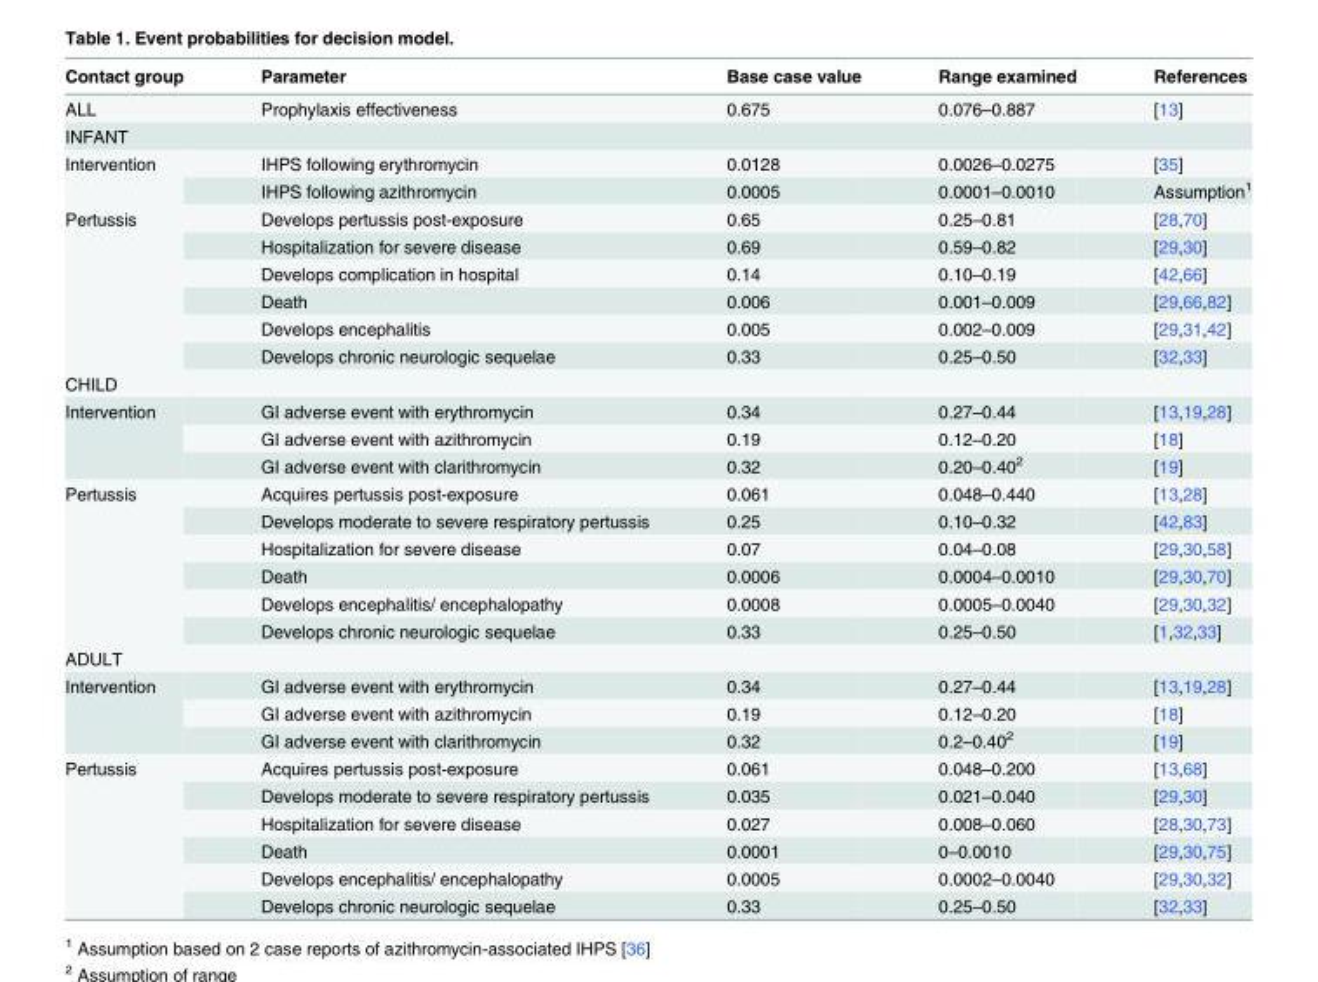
<table><thead><tr><td>Contact group</td><td>Parameter</td><td>Base case value</td><td>Range examined</td><td>References</td></tr></thead><tbody><tr><td>ALL</td><td>Prophylaxis effectiveness</td><td>0.675</td><td>0.076–0.887</td><td>[13]</td></tr><tr><td colspan="5">INFANT</td></tr><tr><td rowspan="2">Intervention</td><td>IHPS following erythromycin</td><td>0.0128</td><td>0.0026–0.0275</td><td>[35]</td></tr><tr><td>IHPS following azithromycin</td><td>0.0005</td><td>0.0001–0.0010</td><td>Assumption<sup>1</sup></td></tr><tr><td rowspan="6">Pertussis</td><td>Develops pertussis post-exposure</td><td>0.65</td><td>0.25–0.81</td><td>[28,70]</td></tr><tr><td>Hospitalization for severe disease</td><td>0.69</td><td>0.59–0.82</td><td>[29,30]</td></tr><tr><td>Develops complication in hospital</td><td>0.14</td><td>0.10–0.19</td><td>[42,66]</td></tr><tr><td>Death</td><td>0.006</td><td>0.001–0.009</td><td>[29,66,82]</td></tr><tr><td>Develops encephalitis</td><td>0.005</td><td>0.002–0.009</td><td>[29,31,42]</td></tr><tr><td>Develops chronic neurologic sequelae</td><td>0.33</td><td>0.25–0.50</td><td>[32,33]</td></tr><tr><td colspan="5">CHILD</td></tr><tr><td rowspan="3">Intervention</td><td>GI adverse event with erythromycin</td><td>0.34</td><td>0.27–0.44</td><td>[13,19,28]</td></tr><tr><td>GI adverse event with azithromycin</td><td>0.19</td><td>0.12–0.20</td><td>[18]</td></tr><tr><td>GI adverse event with clarithromycin</td><td>0.32</td><td>0.20–0.40<sup>2</sup></td><td>[19]</td></tr><tr><td rowspan="6">Pertussis</td><td>Acquires pertussis post-exposure</td><td>0.061</td><td>0.048–0.440</td><td>[13,28]</td></tr><tr><td>Develops moderate to severe respiratory pertussis</td><td>0.25</td><td>0.10–0.32</td><td>[42,83]</td></tr><tr><td>Hospitalization for severe disease</td><td>0.07</td><td>0.04–0.08</td><td>[29,30,58]</td></tr><tr><td>Death</td><td>0.0006</td><td>0.0004–0.0010</td><td>[29,30,70]</td></tr><tr><td>Develops encephalitis/ encephalopathy</td><td>0.0008</td><td>0.0005–0.0040</td><td>[29,30,32]</td></tr><tr><td>Develops chronic neurologic sequelae</td><td>0.33</td><td>0.25–0.50</td><td>[1,32,33]</td></tr><tr><td colspan="5">ADULT</td></tr><tr><td rowspan="3">Intervention</td><td>GI adverse event with erythromycin</td><td>0.34</td><td>0.27–0.44</td><td>[13,19,28]</td></tr><tr><td>GI adverse event with azithromycin</td><td>0.19</td><td>0.12–0.20</td><td>[18]</td></tr><tr><td>GI adverse event with clarithromycin</td><td>0.32</td><td>0.2–0.40<sup>2</sup></td><td>[19]</td></tr><tr><td rowspan="6">Pertussis</td><td>Acquires pertussis post-exposure</td><td>0.061</td><td>0.048–0.200</td><td>[13,68]</td></tr><tr><td>Develops moderate to severe respiratory pertussis</td><td>0.035</td><td>0.021–0.040</td><td>[29,30]</td></tr><tr><td>Hospitalization for severe disease</td><td>0.027</td><td>0.008–0.060</td><td>[28,30,73]</td></tr><tr><td>Death</td><td>0.0001</td><td>0–0.0010</td><td>[29,30,75]</td></tr><tr><td>Develops encephalitis/ encephalopathy</td><td>0.0005</td><td>0.0002–0.0040</td><td>[29,30,32]</td></tr><tr><td>Develops chronic neurologic sequelae</td><td>0.33</td><td>0.25–0.50</td><td>[32,33]</td></tr></tbody></table>